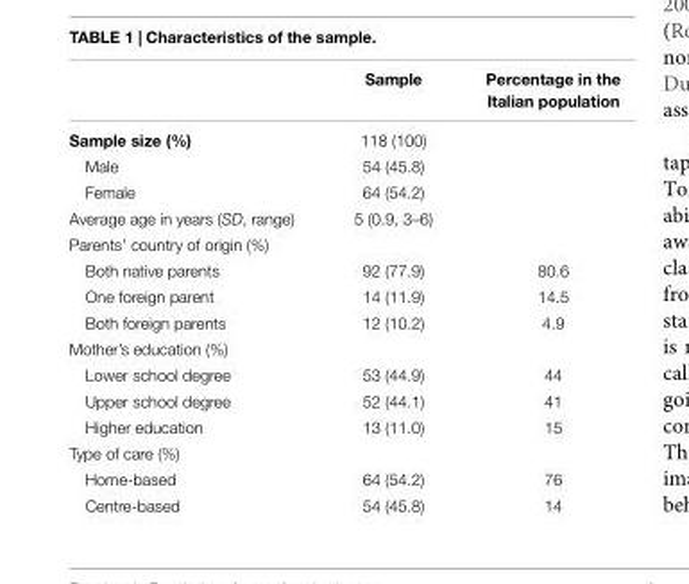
<table><thead><tr><td></td><td>Sample</td><td>Percentage in the Italian population</td></tr></thead><tbody><tr><td>Sample size (%)</td><td>118 (100)</td><td></td></tr><tr><td>Male</td><td>54 (45.8)</td><td></td></tr><tr><td>Female</td><td>64 (54.2)</td><td></td></tr><tr><td>Average age in years (SD, range)</td><td>5 (0.9, 3–6)</td><td></td></tr><tr><td colspan="3">Parents’ country of origin (%)</td></tr><tr><td>Both native parents</td><td>92 (77.9)</td><td>80.6</td></tr><tr><td>One foreign parent</td><td>14 (11.9)</td><td>14.5</td></tr><tr><td>Both foreign parents</td><td>12 (10.2)</td><td>4.9</td></tr><tr><td colspan="3">Mother’s education (%)</td></tr><tr><td>Lower school degree</td><td>53 (44.9)</td><td>44</td></tr><tr><td>Upper school degree</td><td>52 (44.1)</td><td>41</td></tr><tr><td>Higher education</td><td>13 (11.0)</td><td>15</td></tr><tr><td colspan="3">Type of care (%)</td></tr><tr><td>Home-based</td><td>64 (54.2)</td><td>76</td></tr><tr><td>Centre-based</td><td>54 (45.8)</td><td>14</td></tr></tbody></table>